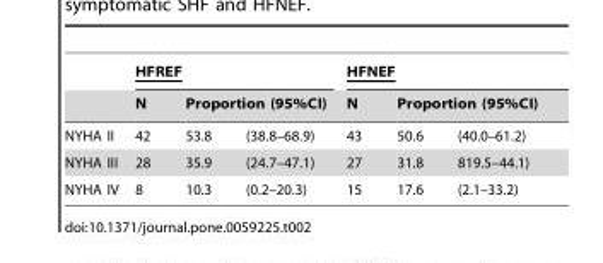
<table><thead><tr><td rowspan="3">NYHA II</td><td colspan="3">HFREF</td><td colspan="3">HFNEF</td></tr><tr><td rowspan="2">N 42</td><td colspan="2">Proportion (95%CI)</td><td rowspan="2">N 43</td><td colspan="2">Proportion (95%CI)</td></tr><tr><td>53.8</td><td>(38.8–68.9)</td><td>50.6</td><td>(40.0–61.2)</td></tr></thead><tbody><tr><td>NYHA III</td><td>28</td><td>35.9</td><td>(24.7–47.1)</td><td>27</td><td>31.8</td><td>819.5–44.1)</td></tr><tr><td>NYHA IV</td><td>8</td><td>10.3</td><td>(0.2–20.3)</td><td>15</td><td>17.6</td><td>(2.1–33.2)</td></tr></tbody></table>